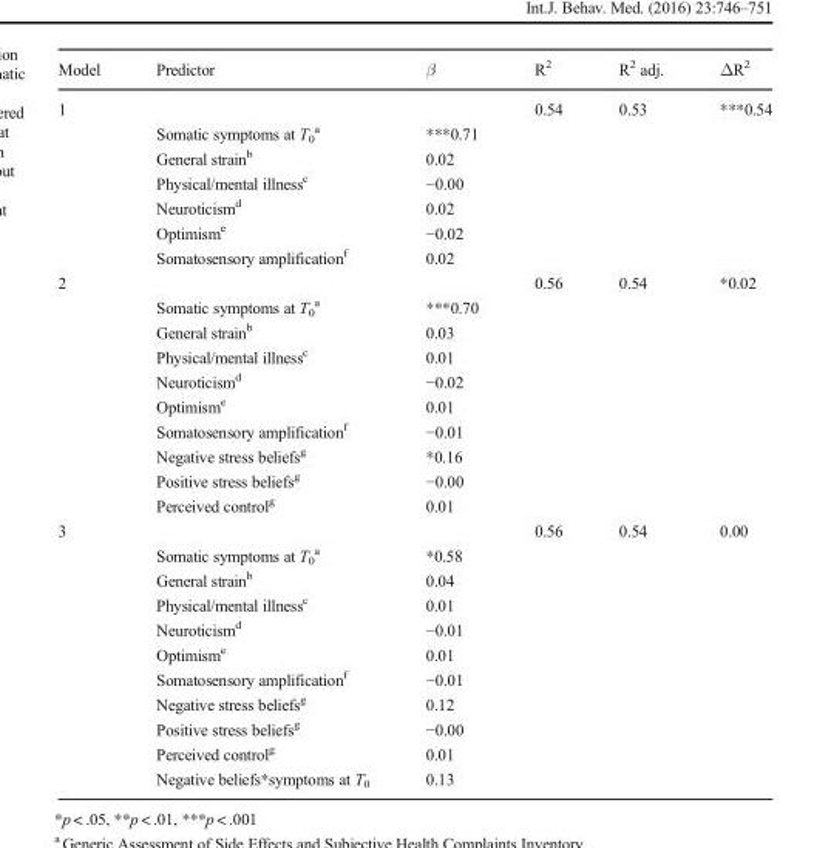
<table><thead><tr><td>Model</td><td>Predictor</td><td>β</td><td>R<sup>2</sup></td><td>R<sup>2</sup> adj.</td><td>ΔR<sup>2</sup></td></tr></thead><tbody><tr><td rowspan="7">1</td><td></td><td></td><td>0.54</td><td>0.53</td><td>***0.54</td></tr><tr><td>Somatic symptoms at T<sub>0</sub> <sup>a</sup></td><td>***0.71</td><td></td><td></td><td></td></tr><tr><td>General strain<sup>b</sup></td><td>0.02</td><td></td><td></td><td></td></tr><tr><td>Physical/mental illness<sup>c</sup></td><td>−0.00</td><td></td><td></td><td></td></tr><tr><td>Neuroticism<sup>d</sup></td><td>0.02</td><td></td><td></td><td></td></tr><tr><td>Optimism<sup>e</sup></td><td>−0.02</td><td></td><td></td><td></td></tr><tr><td>Somatosensory amplification<sup>f</sup></td><td>0.02</td><td></td><td></td><td></td></tr><tr><td rowspan="10">2</td><td></td><td></td><td>0.56</td><td>0.54</td><td>*0.02</td></tr><tr><td>Somatic symptoms at T<sub>0</sub> <sup>a</sup></td><td>***0.70</td><td></td><td></td><td></td></tr><tr><td>General strain<sup>b</sup></td><td>0.03</td><td></td><td></td><td></td></tr><tr><td>Physical/mental illness<sup>c</sup></td><td>0.01</td><td></td><td></td><td></td></tr><tr><td>Neuroticism<sup>d</sup></td><td>−0.02</td><td></td><td></td><td></td></tr><tr><td>Optimism<sup>e</sup></td><td>0.01</td><td></td><td></td><td></td></tr><tr><td>Somatosensory amplification<sup>f</sup></td><td>−0.01</td><td></td><td></td><td></td></tr><tr><td>Negative stress beliefs<sup>g</sup></td><td>*0.16</td><td></td><td></td><td></td></tr><tr><td>Positive stress beliefs<sup>g</sup></td><td>−0.00</td><td></td><td></td><td></td></tr><tr><td>Perceived control<sup>g</sup></td><td>0.01</td><td></td><td></td><td></td></tr><tr><td rowspan="11">3</td><td></td><td></td><td>0.56</td><td>0.54</td><td>0.00</td></tr><tr><td>Somatic symptoms at T<sub>0</sub> <sup>a</sup></td><td>*0.58</td><td></td><td></td><td></td></tr><tr><td>General strain<sup>b</sup></td><td>0.04</td><td></td><td></td><td></td></tr><tr><td>Physical/mental illness<sup>c</sup></td><td>0.01</td><td></td><td></td><td></td></tr><tr><td>Neuroticism<sup>d</sup></td><td>−0.01</td><td></td><td></td><td></td></tr><tr><td>Optimism<sup>e</sup></td><td>0.01</td><td></td><td></td><td></td></tr><tr><td>Somatosensory amplification<sup>f</sup></td><td>−0.01</td><td></td><td></td><td></td></tr><tr><td>Negative stress beliefs<sup>g</sup></td><td>0.12</td><td></td><td></td><td></td></tr><tr><td>Positive stress beliefs<sup>g</sup></td><td>−0.00</td><td></td><td></td><td></td></tr><tr><td>Perceived control<sup>g</sup></td><td>0.01</td><td></td><td></td><td></td></tr><tr><td>Negative beliefs*symptoms at T<sub>0</sub></td><td>0.13</td><td></td><td></td><td></td></tr></tbody></table>